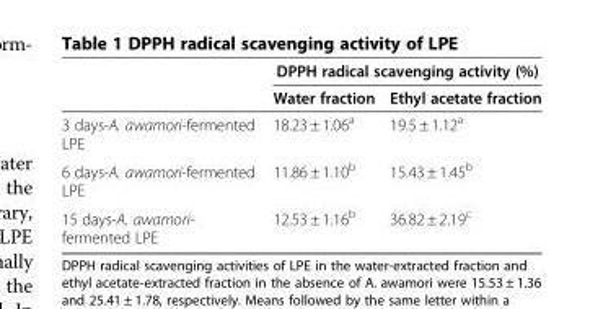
<table><thead><tr><td rowspan="2"></td><td colspan="2">DPPH radical scavenging activity (%)</td></tr><tr><td>Water fraction</td><td>Ethyl acetate fraction</td></tr></thead><tbody><tr><td>3 days-A. awamori-fermented LPE</td><td>18.23 ± 1.06<sup>a</sup></td><td>19.5 ± 1.12<sup>a</sup></td></tr><tr><td>6 days-A. awamori-fermented LPE</td><td>11.86 ± 1.10<sup>b</sup></td><td>15.43 ± 1.45<sup>b</sup></td></tr><tr><td>15 days-A. awamori- fermented LPE</td><td>12.53 ± 1.16<sup>b</sup></td><td>36.82 ± 2.19<sup>c</sup></td></tr></tbody></table>